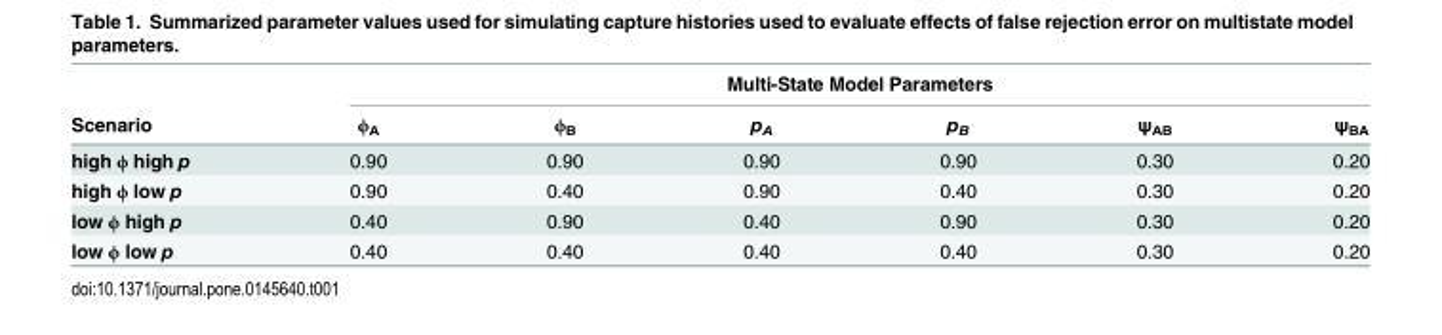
<table><thead><tr><td rowspan="2">Scenario</td><td colspan="6">Multi-State Model Parameters</td></tr><tr><td>ϕ<sub>A</sub></td><td>ϕ<sub>B</sub></td><td>p<sub>A</sub></td><td>p<sub>B</sub></td><td>ψ<sub>AB</sub></td><td>ψ<sub>BA</sub></td></tr></thead><tbody><tr><td>high ϕ high p</td><td>0.90</td><td>0.90</td><td>0.90</td><td>0.90</td><td>0.30</td><td>0.20</td></tr><tr><td>high ϕ low p</td><td>0.90</td><td>0.40</td><td>0.90</td><td>0.40</td><td>0.30</td><td>0.20</td></tr><tr><td>low ϕ high p</td><td>0.40</td><td>0.90</td><td>0.40</td><td>0.90</td><td>0.30</td><td>0.20</td></tr><tr><td>low ϕ low p</td><td>0.40</td><td>0.40</td><td>0.40</td><td>0.40</td><td>0.30</td><td>0.20</td></tr></tbody></table>